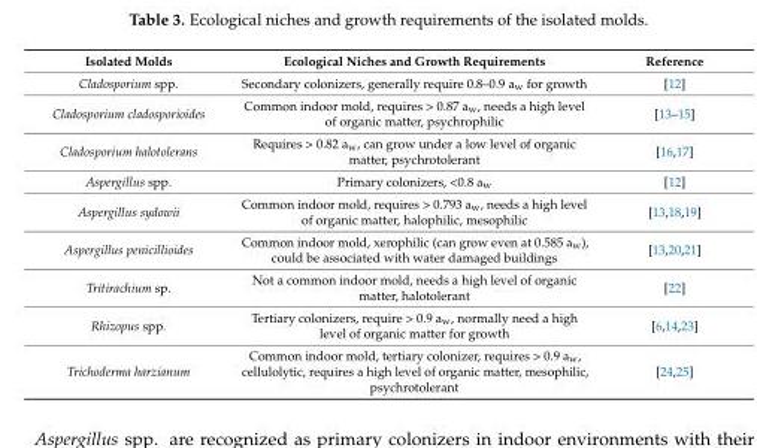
<table><thead><tr><td>Isolated Molds</td><td>Ecological Niches and Growth Requirements</td><td>Reference</td></tr></thead><tbody><tr><td>Cladosporium spp.</td><td>Secondary colonizers, generally require 0.8–0.9 a<sub>w</sub> for growth</td><td>[12]</td></tr><tr><td>Cladosporium cladosporioides</td><td>Common indoor mold, requires &gt; 0.87 a<sub>w</sub>, needs a high level of organic matter, psychrophilic</td><td>[13–15]</td></tr><tr><td>Cladosporium halotolerans</td><td>Requires &gt; 0.82 a<sub>w</sub>, can grow under a low level of organic matter, psychrotolerant</td><td>[16,17]</td></tr><tr><td>Aspergillus spp.</td><td>Primary colonizers, &lt;0.8 a<sub>w</sub></td><td>[12]</td></tr><tr><td>Aspergillus sydowii</td><td>Common indoor mold, requires &gt; 0.793 a<sub>w</sub>, needs a high level of organic matter, halophilic, mesophilic</td><td>[13,18,19]</td></tr><tr><td>Aspergillus penicillioides</td><td>Common indoor mold, xerophilic (can grow even at 0.585 a<sub>w</sub>), could be associated with water damaged buildings</td><td>[13,20,21]</td></tr><tr><td>Tritirachium sp.</td><td>Not a common indoor mold, needs a high level of organic matter, halotolerant</td><td>[22]</td></tr><tr><td>Rhizopus spp.</td><td>Tertiary colonizers, require &gt; 0.9 a<sub>w</sub>, normally need a high level of organic matter for growth</td><td>[6,14,23]</td></tr><tr><td>Trichoderma harzianum</td><td>Common indoor mold, tertiary colonizer, requires &gt; 0.9 a<sub>w</sub>, cellulolytic, requires a high level of organic matter, mesophilic, psychrotolerant</td><td>[24,25]</td></tr></tbody></table>